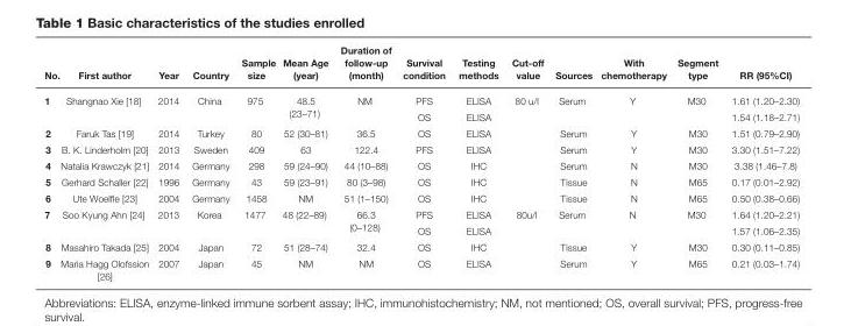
<table><thead><tr><td>No.</td><td>First author</td><td>Year</td><td>Country</td><td>Sample size</td><td>Mean Age (year)</td><td>Duration of follow-up (month)</td><td>Survival condition</td><td>Testing methods</td><td>Cut-off value</td><td>Sources</td><td>With chemotherapy</td><td>Segment type</td><td>RR (95%CI)</td></tr></thead><tbody><tr><td rowspan="2">1</td><td rowspan="2">Shangnao Xie [18]</td><td rowspan="2">2014</td><td rowspan="2">China</td><td rowspan="2">975</td><td rowspan="2">48.5 (23–71)</td><td rowspan="2">NM</td><td>PFS</td><td>ELISA</td><td rowspan="2">80 u/l</td><td rowspan="2">Serum</td><td rowspan="2">Y</td><td rowspan="2">M30</td><td>1.61 (1.20–2.30)</td></tr><tr><td>OS</td><td>ELISA</td><td>1.54 (1.18–2.71)</td></tr><tr><td>2</td><td>Faruk Tas [19]</td><td>2014</td><td>Turkey</td><td>80</td><td>52 (30–81)</td><td>36.5</td><td>OS</td><td>ELISA</td><td></td><td>Serum</td><td>Y</td><td>M30</td><td>1.51 (0.79–2.90)</td></tr><tr><td>3</td><td>B. K. Linderholm [20]</td><td>2013</td><td>Sweden</td><td>409</td><td>63</td><td>122.4</td><td>PFS</td><td>ELISA</td><td></td><td>Serum</td><td>Y</td><td>M30</td><td>3.30 (1.51–7.22)</td></tr><tr><td>4</td><td>Natalia Krawczyk [21]</td><td>2014</td><td>Germany</td><td>298</td><td>59 (24–90)</td><td>44 (10–88)</td><td>OS</td><td>IHC</td><td></td><td>Serum</td><td>N</td><td>M30</td><td>3.38 (1.46–7.8)</td></tr><tr><td>5</td><td>Gerhard Schaller [22]</td><td>1996</td><td>Germany</td><td>43</td><td>59 (23–91)</td><td>80 (3–98)</td><td>OS</td><td>IHC</td><td></td><td>Tissue</td><td>N</td><td>M65</td><td>0.17 (0.01–2.92)</td></tr><tr><td>6</td><td>Ute Woelfle [23]</td><td>2004</td><td>Germany</td><td>1458</td><td>NM</td><td>51 (1–150)</td><td>OS</td><td>IHC</td><td></td><td>Tissue</td><td>N</td><td>M65</td><td>0.50 (0.38–0.66)</td></tr><tr><td rowspan="2">7</td><td rowspan="2">Soo Kyung Ahn [24]</td><td rowspan="2">2013</td><td rowspan="2">Korea</td><td rowspan="2">1477</td><td rowspan="2">48 (22–89)</td><td rowspan="2">66.3 (0–128)</td><td>PFS</td><td>ELISA</td><td rowspan="2">80u/l</td><td rowspan="2">Serum</td><td rowspan="2">N</td><td rowspan="2">M30</td><td>1.64 (1.20–2.21)</td></tr><tr><td>OS</td><td>ELISA</td><td>1.57 (1.06–2.35)</td></tr><tr><td>8</td><td>Masahiro Takada [25]</td><td>2004</td><td>Japan</td><td>72</td><td>51 (28–74)</td><td>32.4</td><td>OS</td><td>IHC</td><td></td><td>Tissue</td><td>Y</td><td>M30</td><td>0.30 (0.11–0.85)</td></tr><tr><td>9</td><td>Maria Hagg Olofssion [26]</td><td>2007</td><td>Japan</td><td>45</td><td>NM</td><td>NM</td><td>OS</td><td>ELISA</td><td></td><td>Serum</td><td>Y</td><td>M65</td><td>0.21 (0.03–1.74)</td></tr></tbody></table>